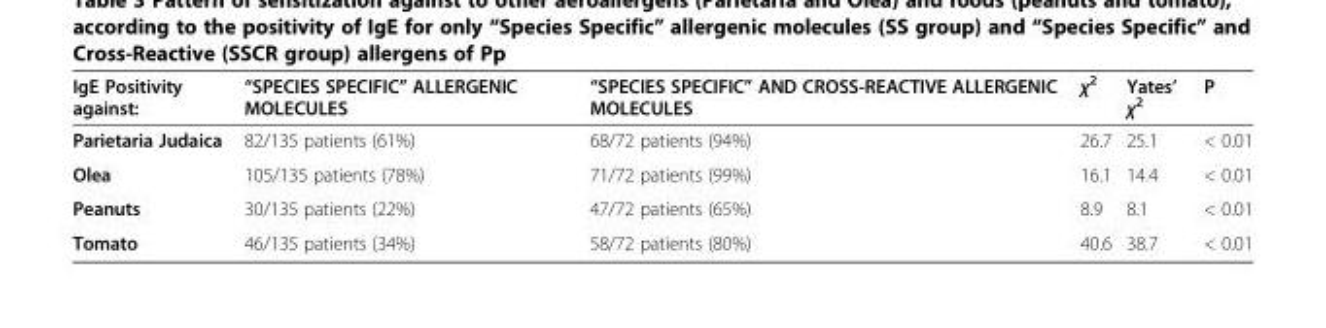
<table><thead><tr><td>IgE Positivity against:</td><td>“SPECIES SPECIFIC” ALLERGENIC MOLECULES</td><td>“SPECIES SPECIFIC” AND CROSS-REACTIVE ALLERGENIC MOLECULES</td><td>χ<sup>2</sup></td><td>Yates’ χ<sup>2</sup></td><td>P</td></tr></thead><tbody><tr><td>Parietaria Judaica</td><td>82/135 patients (61%)</td><td>68/72 patients (94%)</td><td>26.7</td><td>25.1</td><td>&lt; 0.01</td></tr><tr><td>Olea</td><td>105/135 patients (78%)</td><td>71/72 patients (99%)</td><td>16.1</td><td>14.4</td><td>&lt; 0.01</td></tr><tr><td>Peanuts</td><td>30/135 patients (22%)</td><td>47/72 patients (65%)</td><td>8.9</td><td>8.1</td><td>&lt; 0.01</td></tr><tr><td>Tomato</td><td>46/135 patients (34%)</td><td>58/72 patients (80%)</td><td>40.6</td><td>38.7</td><td>&lt; 0.01</td></tr></tbody></table>